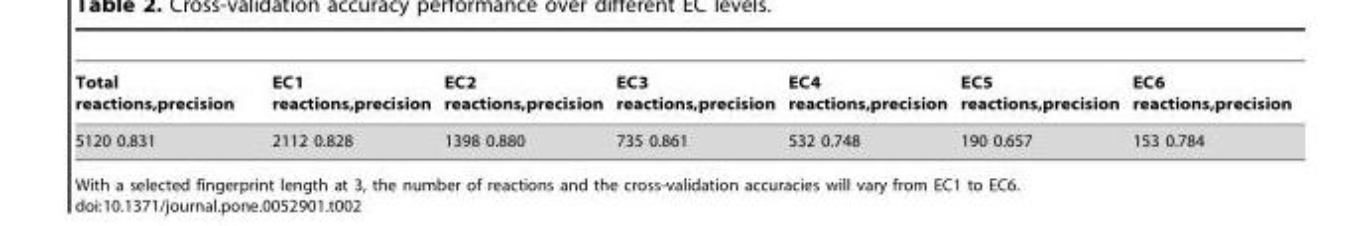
<table><thead><tr><td>Total reactions,precision</td><td>EC1 reactions,precision</td><td>EC2 reactions,precision</td><td>EC3 reactions,precision</td><td>EC4 reactions,precision</td><td>EC5 reactions,precision</td><td>EC6 reactions,precision</td></tr></thead><tbody><tr><td>5120 0.831</td><td>2112 0.828</td><td>1398 0.880</td><td>735 0.861</td><td>532 0.748</td><td>190 0.657</td><td>153 0.784</td></tr></tbody></table>